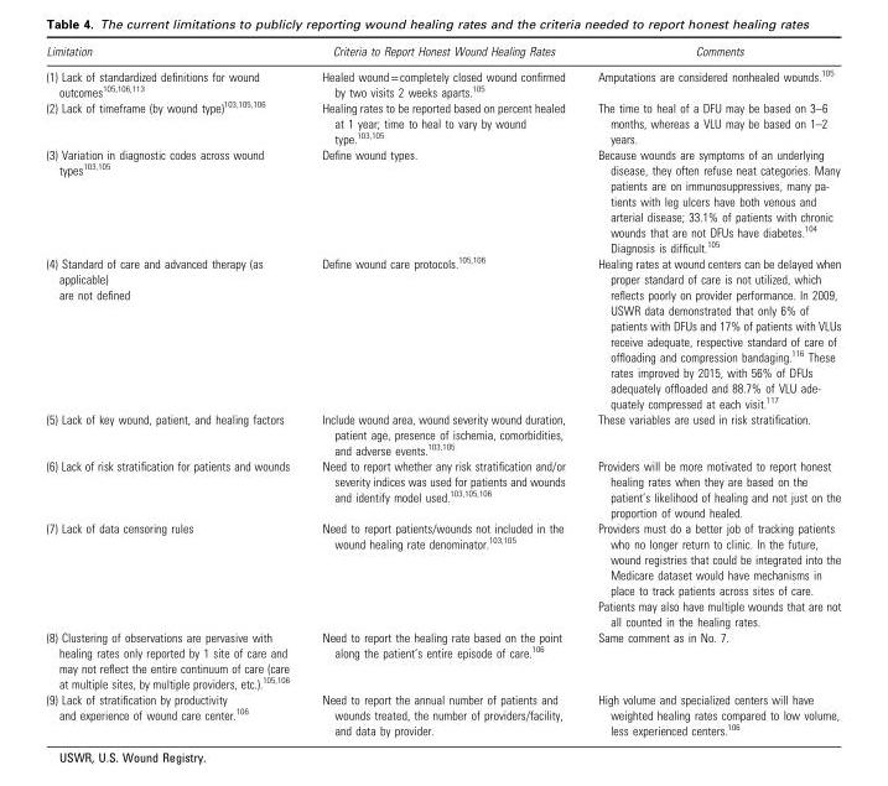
<table><thead><tr><td>Limitation</td><td>Criteria to Report Honest Wound Healing Rates</td><td>Comments</td></tr></thead><tbody><tr><td>(1) Lack of standardized definitions for wound outcomes<sup>105,106,113</sup></td><td>Healed wound = completely closed wound confirmed by two visits 2 weeks aparts.<sup>105</sup></td><td>Amputations are considered nonhealed wounds.<sup>105</sup></td></tr><tr><td>(2) Lack of timeframe (by wound type)<sup>103,105,106</sup></td><td>Healing rates to be reported based on percent healed at 1 year; time to heal to vary by wound type.<sup>103,105</sup></td><td>The time to heal of a DFU may be based on 3–6 months, whereas a VLU may be based on 1–2 years.</td></tr><tr><td>(3) Variation in diagnostic codes across wound types<sup>103,105</sup></td><td>Define wound types.</td><td>Because wounds are symptoms of an underlying disease, they often refuse neat categories. Many patients are on immunosuppressives, many pa- tients with leg ulcers have both venous and arterial disease; 33.1% of patients with chronic wounds that are not DFUs have diabetes.104 Diagnosis is difficult.105</td></tr><tr><td>(4) Standard of care and advanced therapy (as applicable) are not defined</td><td>Define wound care protocols.<sup>105,106</sup></td><td>Healing rates at wound centers can be delayed when proper standard of care is not utilized, which reflects poorly on provider performance. In 2009, USWR data demonstrated that only 6% of patients with DFUs and 17% of patients with VLUs receive adequate, respective standard of care of offloading and compression bandaging.116 These rates improved by 2015, with 56% of DFUs adequately offloaded and 88.7% of VLU ade- quately compressed at each visit.117</td></tr><tr><td>(5) Lack of key wound, patient, and healing factors</td><td>Include wound area, wound severity wound duration, patient age, presence of ischemia, comorbidities, and adverse events.<sup>103,105</sup></td><td>These variables are used in risk stratification.</td></tr><tr><td>(6) Lack of risk stratification for patients and wounds</td><td>Need to report whether any risk stratification and/or severity indices was used for patients and wounds and identify model used.<sup>103,105,106</sup></td><td>Providers will be more motivated to report honest healing rates when they are based on the patient’s likelihood of healing and not just on the proportion of wound healed.</td></tr><tr><td rowspan="2">(7) Lack of data censoring rules</td><td>Need to report patients/wounds not included in the wound healing rate denominator.<sup>103,105</sup></td><td>Providers must do a better job of tracking patients who no longer return to clinic. In the future, wound registries that could be integrated into the Medicare dataset would have mechanisms in place to track patients across sites of care.</td></tr><tr><td></td><td>Patients may also have multiple wounds that are not all counted in the healing rates.</td></tr><tr><td>(8) Clustering of observations are pervasive with healing rates only reported by 1 site of care and may not reflect the entire continuum of care (care at multiple sites, by multiple providers, etc.).<sup>105,106</sup></td><td>Need to report the healing rate based on the point along the patient’s entire episode of care.<sup>106</sup></td><td>Same comment as in No. 7.</td></tr><tr><td>(9) Lack of stratification by productivity and experience of wound care center.<sup>106</sup></td><td>Need to report the annual number of patients and wounds treated, the number of providers/facility, and data by provider.</td><td>High volume and specialized centers will have weighted healing rates compared to low volume, less experienced centers.<sup>106</sup></td></tr></tbody></table>